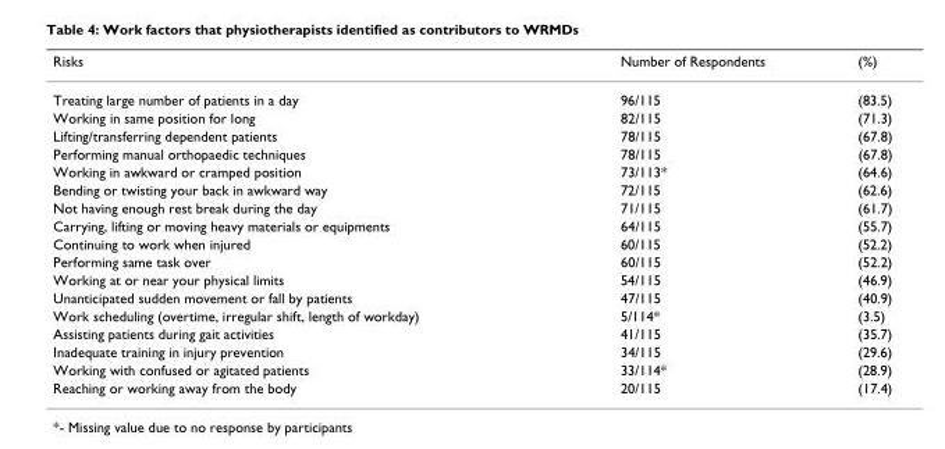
<table><thead><tr><td>Risks</td><td>Number of Respondents</td><td>(%)</td></tr></thead><tbody><tr><td>Treating large number of patients in a day</td><td>96/115</td><td>(83.5)</td></tr><tr><td>Working in same position for long</td><td>82/115</td><td>(71.3)</td></tr><tr><td>Lifting/transferring dependent patients</td><td>78/115</td><td>(67.8)</td></tr><tr><td>Performing manual orthopaedic techniques</td><td>78/115</td><td>(67.8)</td></tr><tr><td>Working in awkward or cramped position</td><td>73/113*</td><td>(64.6)</td></tr><tr><td>Bending or twisting your back in awkward way</td><td>72/115</td><td>(62.6)</td></tr><tr><td>Not having enough rest break during the day</td><td>71/115</td><td>(61.7)</td></tr><tr><td>Carrying, lifting or moving heavy materials or equipments</td><td>64/115</td><td>(55.7)</td></tr><tr><td>Continuing to work when injured</td><td>60/115</td><td>(52.2)</td></tr><tr><td>Performing same task over</td><td>60/115</td><td>(52.2)</td></tr><tr><td>Working at or near your physical limits</td><td>54/115</td><td>(46.9)</td></tr><tr><td>Unanticipated sudden movement or fall by patients</td><td>47/115</td><td>(40.9)</td></tr><tr><td>Work scheduling (overtime, irregular shift, length of workday)</td><td>5/114*</td><td>(3.5)</td></tr><tr><td>Assisting patients during gait activities</td><td>41/115</td><td>(35.7)</td></tr><tr><td>Inadequate training in injury prevention</td><td>34/115</td><td>(29.6)</td></tr><tr><td>Working with confused or agitated patients</td><td>33/114*</td><td>(28.9)</td></tr><tr><td>Reaching or working away from the body</td><td>20/115</td><td>(17.4)</td></tr></tbody></table>